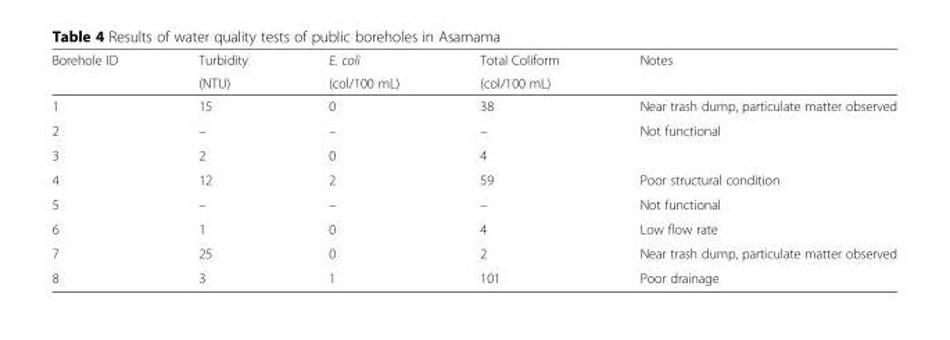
<table><thead><tr><td rowspan="2">Borehole ID</td><td rowspan="2">Turbidity (NTU)</td><td rowspan="2">E. coli (col/100 mL)</td><td rowspan="2">Total Coliform (col/100 mL)</td><td rowspan="2">Notes</td></tr><tr></tr></thead><tbody><tr><td>1</td><td>15</td><td>0</td><td>38</td><td>Near trash dump, particulate matter observed</td></tr><tr><td>2</td><td>–</td><td>–</td><td>–</td><td>Not functional</td></tr><tr><td>3</td><td>2</td><td>0</td><td>4</td><td></td></tr><tr><td>4</td><td>12</td><td>2</td><td>59</td><td>Poor structural condition</td></tr><tr><td>5</td><td>–</td><td>–</td><td>–</td><td>Not functional</td></tr><tr><td>6</td><td>1</td><td>0</td><td>4</td><td>Low flow rate</td></tr><tr><td>7</td><td>25</td><td>0</td><td>2</td><td>Near trash dump, particulate matter observed</td></tr><tr><td>8</td><td>3</td><td>1</td><td>101</td><td>Poor drainage</td></tr></tbody></table>